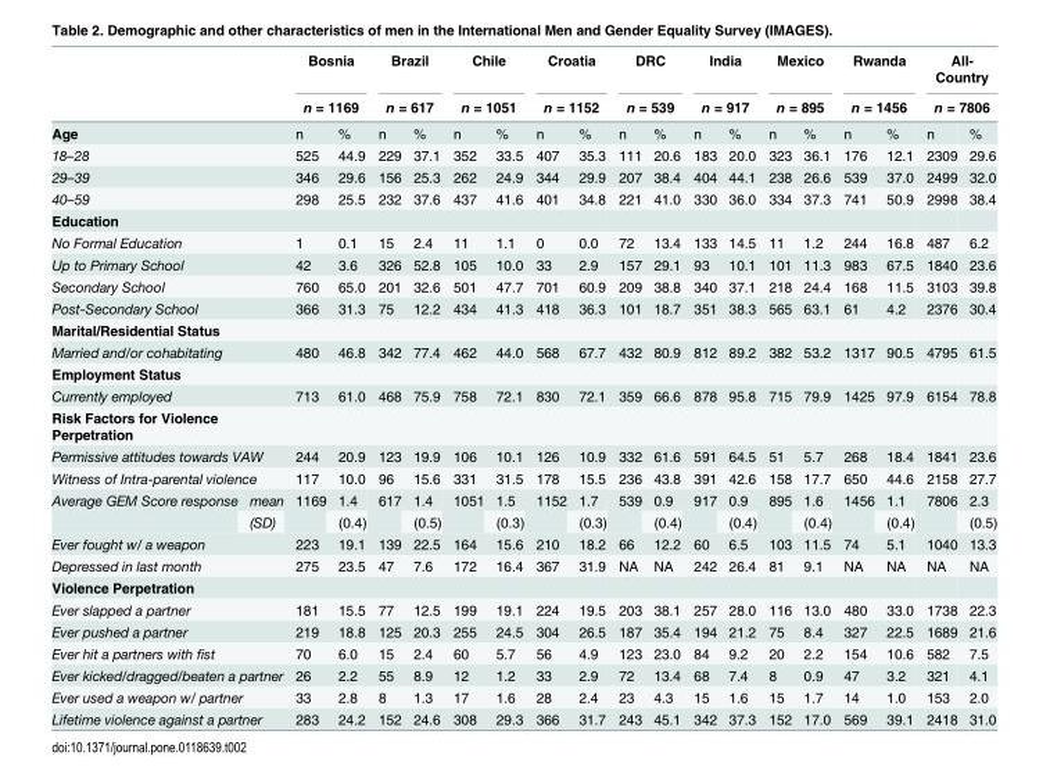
<table><thead><tr><td rowspan="2"></td><td rowspan="2"></td><td rowspan="2" colspan="2">Bosnia n = 1169</td><td rowspan="2" colspan="2">Brazil n = 617</td><td rowspan="2" colspan="2">Chile n = 1051</td><td rowspan="2" colspan="2">Croatia n = 1152</td><td rowspan="2" colspan="2">DRC n = 539</td><td rowspan="2" colspan="2">India n = 917</td><td rowspan="2" colspan="2">Mexico n = 895</td><td rowspan="2" colspan="2">Rwanda n = 1456</td><td rowspan="2" colspan="2">All- Country n = 7806</td></tr><tr></tr><tr><td colspan="2">Age</td><td>n</td><td>%</td><td>n</td><td>%</td><td>n</td><td>%</td><td>n</td><td>%</td><td>n</td><td>%</td><td>n</td><td>%</td><td>n</td><td>%</td><td>n</td><td>%</td><td>n</td><td>%</td></tr></thead><tbody><tr><td colspan="2">18–28</td><td>525</td><td>44.9</td><td>229</td><td>37.1</td><td>352</td><td>33.5</td><td>407</td><td>35.3</td><td>111</td><td>20.6</td><td>183</td><td>20.0</td><td>323</td><td>36.1</td><td>176</td><td>12.1</td><td>2309</td><td>29.6</td></tr><tr><td colspan="2">29–39</td><td>346</td><td>29.6</td><td>156</td><td>25.3</td><td>262</td><td>24.9</td><td>344</td><td>29.9</td><td>207</td><td>38.4</td><td>404</td><td>44.1</td><td>238</td><td>26.6</td><td>539</td><td>37.0</td><td>2499</td><td>32.0</td></tr><tr><td colspan="2">40–59</td><td>298</td><td>25.5</td><td>232</td><td>37.6</td><td>437</td><td>41.6</td><td>401</td><td>34.8</td><td>221</td><td>41.0</td><td>330</td><td>36.0</td><td>334</td><td>37.3</td><td>741</td><td>50.9</td><td>2998</td><td>38.4</td></tr><tr><td colspan="20">Education</td></tr><tr><td colspan="2">No Formal Education</td><td>1</td><td>0.1</td><td>15</td><td>2.4</td><td>11</td><td>1.1</td><td>0</td><td>0.0</td><td>72</td><td>13.4</td><td>133</td><td>14.5</td><td>11</td><td>1.2</td><td>244</td><td>16.8</td><td>487</td><td>6.2</td></tr><tr><td colspan="2">Up to Primary School</td><td>42</td><td>3.6</td><td>326</td><td>52.8</td><td>105</td><td>10.0</td><td>33</td><td>2.9</td><td>157</td><td>29.1</td><td>93</td><td>10.1</td><td>101</td><td>11.3</td><td>983</td><td>67.5</td><td>1840</td><td>23.6</td></tr><tr><td colspan="2">Secondary School</td><td>760</td><td>65.0</td><td>201</td><td>32.6</td><td>501</td><td>47.7</td><td>701</td><td>60.9</td><td>209</td><td>38.8</td><td>340</td><td>37.1</td><td>218</td><td>24.4</td><td>168</td><td>11.5</td><td>3103</td><td>39.8</td></tr><tr><td colspan="2">Post-Secondary School</td><td>366</td><td>31.3</td><td>75</td><td>12.2</td><td>434</td><td>41.3</td><td>418</td><td>36.3</td><td>101</td><td>18.7</td><td>351</td><td>38.3</td><td>565</td><td>63.1</td><td>61</td><td>4.2</td><td>2376</td><td>30.4</td></tr><tr><td colspan="20">Marital/Residential Status</td></tr><tr><td colspan="2">Married and/or cohabitating</td><td>480</td><td>46.8</td><td>342</td><td>77.4</td><td>462</td><td>44.0</td><td>568</td><td>67.7</td><td>432</td><td>80.9</td><td>812</td><td>89.2</td><td>382</td><td>53.2</td><td>1317</td><td>90.5</td><td>4795</td><td>61.5</td></tr><tr><td colspan="20">Employment Status</td></tr><tr><td colspan="2">Currently employed</td><td>713</td><td>61.0</td><td>468</td><td>75.9</td><td>758</td><td>72.1</td><td>830</td><td>72.1</td><td>359</td><td>66.6</td><td>878</td><td>95.8</td><td>715</td><td>79.9</td><td>1425</td><td>97.9</td><td>6154</td><td>78.8</td></tr><tr><td colspan="20">Risk Factors for Violence Perpetration</td></tr><tr><td colspan="2">Permissive attitudes towards VAW</td><td>244</td><td>20.9</td><td>123</td><td>19.9</td><td>106</td><td>10.1</td><td>126</td><td>10.9</td><td>332</td><td>61.6</td><td>591</td><td>64.5</td><td>51</td><td>5.7</td><td>268</td><td>18.4</td><td>1841</td><td>23.6</td></tr><tr><td colspan="2">Witness of Intra-parental violence</td><td>117</td><td>10.0</td><td>96</td><td>15.6</td><td>331</td><td>31.5</td><td>178</td><td>15.5</td><td>236</td><td>43.8</td><td>391</td><td>42.6</td><td>158</td><td>17.7</td><td>650</td><td>44.6</td><td>2158</td><td>27.7</td></tr><tr><td rowspan="2">Average GEM Score response</td><td>mean</td><td rowspan="2">1169</td><td>1.4</td><td rowspan="2">617</td><td>1.4</td><td rowspan="2">1051</td><td>1.5</td><td rowspan="2">1152</td><td>1.7</td><td rowspan="2">539</td><td>0.9</td><td rowspan="2">917</td><td>0.9</td><td rowspan="2">895</td><td>1.6</td><td rowspan="2">1456</td><td>1.1</td><td rowspan="2">7806</td><td>2.3</td></tr><tr><td>(SD)</td><td>(0.4)</td><td>(0.5)</td><td>(0.3)</td><td>(0.3)</td><td>(0.4)</td><td>(0.4)</td><td>(0.4)</td><td>(0.4)</td><td>(0.5)</td></tr><tr><td colspan="2">Ever fought w/ a weapon</td><td>223</td><td>19.1</td><td>139</td><td>22.5</td><td>164</td><td>15.6</td><td>210</td><td>18.2</td><td>66</td><td>12.2</td><td>60</td><td>6.5</td><td>103</td><td>11.5</td><td>74</td><td>5.1</td><td>1040</td><td>13.3</td></tr><tr><td colspan="2">Depressed in last month</td><td>275</td><td>23.5</td><td>47</td><td>7.6</td><td>172</td><td>16.4</td><td>367</td><td>31.9</td><td>NA</td><td>NA</td><td>242</td><td>26.4</td><td>81</td><td>9.1</td><td>NA</td><td>NA</td><td>NA</td><td>NA</td></tr><tr><td colspan="20">Violence Perpetration</td></tr><tr><td colspan="2">Ever slapped a partner</td><td>181</td><td>15.5</td><td>77</td><td>12.5</td><td>199</td><td>19.1</td><td>224</td><td>19.5</td><td>203</td><td>38.1</td><td>257</td><td>28.0</td><td>116</td><td>13.0</td><td>480</td><td>33.0</td><td>1738</td><td>22.3</td></tr><tr><td colspan="2">Ever pushed a partner</td><td>219</td><td>18.8</td><td>125</td><td>20.3</td><td>255</td><td>24.5</td><td>304</td><td>26.5</td><td>187</td><td>35.4</td><td>194</td><td>21.2</td><td>75</td><td>8.4</td><td>327</td><td>22.5</td><td>1689</td><td>21.6</td></tr><tr><td colspan="2">Ever hit a partners with fist</td><td>70</td><td>6.0</td><td>15</td><td>2.4</td><td>60</td><td>5.7</td><td>56</td><td>4.9</td><td>123</td><td>23.0</td><td>84</td><td>9.2</td><td>20</td><td>2.2</td><td>154</td><td>10.6</td><td>582</td><td>7.5</td></tr><tr><td colspan="2">Ever kicked/dragged/beaten a partner</td><td>26</td><td>2.2</td><td>55</td><td>8.9</td><td>12</td><td>1.2</td><td>33</td><td>2.9</td><td>72</td><td>13.4</td><td>68</td><td>7.4</td><td>8</td><td>0.9</td><td>47</td><td>3.2</td><td>321</td><td>4.1</td></tr><tr><td colspan="2">Ever used a weapon w/ partner</td><td>33</td><td>2.8</td><td>8</td><td>1.3</td><td>17</td><td>1.6</td><td>28</td><td>2.4</td><td>23</td><td>4.3</td><td>15</td><td>1.6</td><td>15</td><td>1.7</td><td>14</td><td>1.0</td><td>153</td><td>2.0</td></tr><tr><td colspan="2">Lifetime violence against a partner</td><td>283</td><td>24.2</td><td>152</td><td>24.6</td><td>308</td><td>29.3</td><td>366</td><td>31.7</td><td>243</td><td>45.1</td><td>342</td><td>37.3</td><td>152</td><td>17.0</td><td>569</td><td>39.1</td><td>2418</td><td>31.0</td></tr></tbody></table>